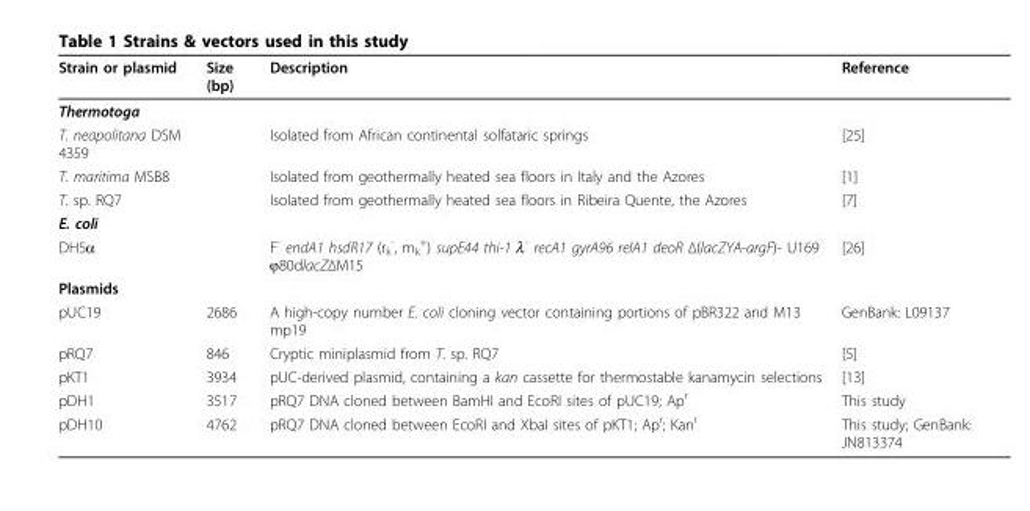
<table><thead><tr><td>Strain or plasmid</td><td>Size (bp)</td><td>Description</td><td>Reference</td></tr></thead><tbody><tr><td colspan="4">Thermotoga</td></tr><tr><td>T. neapolitana DSM 4359</td><td></td><td>Isolated from African continental solfataric springs</td><td>[25]</td></tr><tr><td>T. maritima MSB8</td><td></td><td>Isolated from geothermally heated sea floors in Italy and the Azores</td><td>[1]</td></tr><tr><td>T. sp. RQ7</td><td></td><td>Isolated from geothermally heated sea floors in Ribeira Quente, the Azores</td><td>[7]</td></tr><tr><td colspan="4">E. coli</td></tr><tr><td>DH5α</td><td></td><td>F<sup>-</sup> endA1 hsdR17 (r<sub>k</sub> <sup>-</sup>, m<sub>k</sub> <sup>+</sup>) supE44 thi-1 λ<sup>-</sup> recA1 gyrA96 relA1 deoR Δ(lacZYA-argF)- U169 ϕ80dlacZΔM15</td><td>[26]</td></tr><tr><td colspan="4">Plasmids</td></tr><tr><td>pUC19</td><td>2686</td><td>A high-copy number E. coli cloning vector containing portions of pBR322 and M13 mp19</td><td>GenBank: L09137</td></tr><tr><td>pRQ7</td><td>846</td><td>Cryptic miniplasmid from T. sp. RQ7</td><td>[5]</td></tr><tr><td>pKT1</td><td>3934</td><td>pUC-derived plasmid, containing a kan cassette for thermostable kanamycin selections</td><td>[13]</td></tr><tr><td>pDH1</td><td>3517</td><td>pRQ7 DNA cloned between BamHI and EcoRI sites of pUC19; Ap<sup>r</sup></td><td>This study</td></tr><tr><td>pDH10</td><td>4762</td><td>pRQ7 DNA cloned between EcoRI and XbaI sites of pKT1; Ap<sup>r</sup>; Kan<sup>r</sup></td><td>This study; GenBank: JN813374</td></tr></tbody></table>